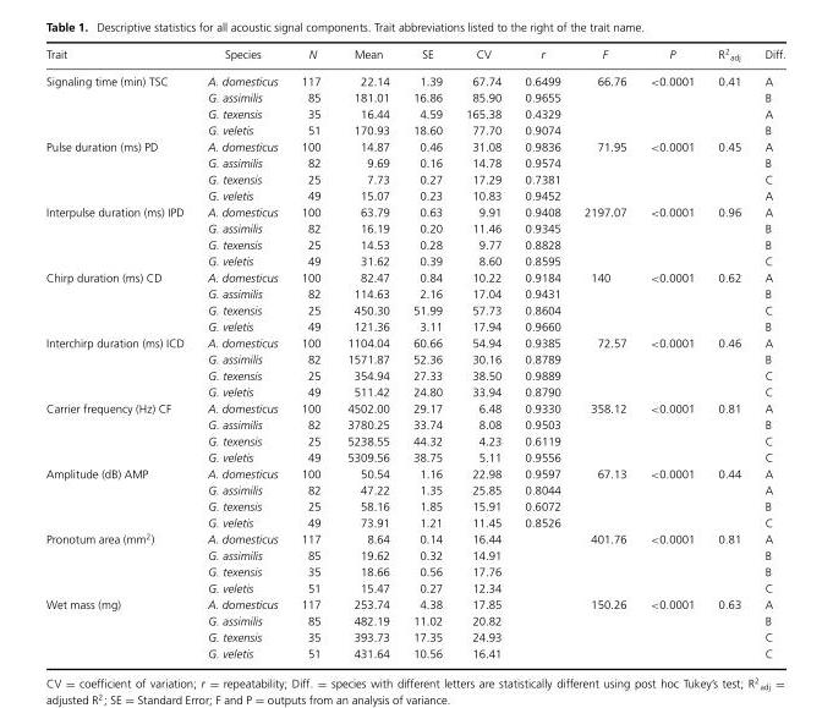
<table><thead><tr><td>Trait</td><td>Species</td><td>N</td><td>Mean</td><td>SE</td><td>CV</td><td>r</td><td>F</td><td>P</td><td>R<sup>2</sup><sub>adj</sub></td><td>Diff.</td></tr></thead><tbody><tr><td rowspan="4">Signaling time (min) TSC</td><td>A. domesticus</td><td>117</td><td>22.14</td><td>1.39</td><td>67.74</td><td>0.6499</td><td>66.76</td><td>&lt;0.0001</td><td>0.41</td><td>A</td></tr><tr><td>G. assimilis</td><td>85</td><td>181.01</td><td>16.86</td><td>85.90</td><td>0.9655</td><td></td><td></td><td></td><td>B</td></tr><tr><td>G. texensis</td><td>35</td><td>16.44</td><td>4.59</td><td>165.38</td><td>0.4329</td><td></td><td></td><td></td><td>A</td></tr><tr><td>G. veletis</td><td>51</td><td>170.93</td><td>18.60</td><td>77.70</td><td>0.9074</td><td></td><td></td><td></td><td>B</td></tr><tr><td rowspan="4">Pulse duration (ms) PD</td><td>A. domesticus</td><td>100</td><td>14.87</td><td>0.46</td><td>31.08</td><td>0.9836</td><td>71.95</td><td>&lt;0.0001</td><td>0.45</td><td>A</td></tr><tr><td>G. assimilis</td><td>82</td><td>9.69</td><td>0.16</td><td>14.78</td><td>0.9574</td><td></td><td></td><td></td><td>B</td></tr><tr><td>G. texensis</td><td>25</td><td>7.73</td><td>0.27</td><td>17.29</td><td>0.7381</td><td></td><td></td><td></td><td>C</td></tr><tr><td>G. veletis</td><td>49</td><td>15.07</td><td>0.23</td><td>10.83</td><td>0.9452</td><td></td><td></td><td></td><td>A</td></tr><tr><td rowspan="4">Interpulse duration (ms) IPD</td><td>A. domesticus</td><td>100</td><td>63.79</td><td>0.63</td><td>9.91</td><td>0.9408</td><td>2197.07</td><td>&lt;0.0001</td><td>0.96</td><td>A</td></tr><tr><td>G. assimilis</td><td>82</td><td>16.19</td><td>0.20</td><td>11.46</td><td>0.9345</td><td></td><td></td><td></td><td>B</td></tr><tr><td>G. texensis</td><td>25</td><td>14.53</td><td>0.28</td><td>9.77</td><td>0.8828</td><td></td><td></td><td></td><td>B</td></tr><tr><td>G. veletis</td><td>49</td><td>31.62</td><td>0.39</td><td>8.60</td><td>0.8595</td><td></td><td></td><td></td><td>C</td></tr><tr><td rowspan="4">Chirp duration (ms) CD</td><td>A. domesticus</td><td>100</td><td>82.47</td><td>0.84</td><td>10.22</td><td>0.9184</td><td>140</td><td>&lt;0.0001</td><td>0.62</td><td>A</td></tr><tr><td>G. assimilis</td><td>82</td><td>114.63</td><td>2.16</td><td>17.04</td><td>0.9431</td><td></td><td></td><td></td><td>B</td></tr><tr><td>G. texensis</td><td>25</td><td>450.30</td><td>51.99</td><td>57.73</td><td>0.8604</td><td></td><td></td><td></td><td>C</td></tr><tr><td>G. veletis</td><td>49</td><td>121.36</td><td>3.11</td><td>17.94</td><td>0.9660</td><td></td><td></td><td></td><td>B</td></tr><tr><td rowspan="4">Interchirp duration (ms) ICD</td><td>A. domesticus</td><td>100</td><td>1104.04</td><td>60.66</td><td>54.94</td><td>0.9385</td><td>72.57</td><td>&lt;0.0001</td><td>0.46</td><td>A</td></tr><tr><td>G. assimilis</td><td>82</td><td>1571.87</td><td>52.36</td><td>30.16</td><td>0.8789</td><td></td><td></td><td></td><td>B</td></tr><tr><td>G. texensis</td><td>25</td><td>354.94</td><td>27.33</td><td>38.50</td><td>0.9889</td><td></td><td></td><td></td><td>C</td></tr><tr><td>G. veletis</td><td>49</td><td>511.42</td><td>24.80</td><td>33.94</td><td>0.8790</td><td></td><td></td><td></td><td>C</td></tr><tr><td rowspan="4">Carrier frequency (Hz) CF</td><td>A. domesticus</td><td>100</td><td>4502.00</td><td>29.17</td><td>6.48</td><td>0.9330</td><td>358.12</td><td>&lt;0.0001</td><td>0.81</td><td>A</td></tr><tr><td>G. assimilis</td><td>82</td><td>3780.25</td><td>33.74</td><td>8.08</td><td>0.9503</td><td></td><td></td><td></td><td>B</td></tr><tr><td>G. texensis</td><td>25</td><td>5238.55</td><td>44.32</td><td>4.23</td><td>0.6119</td><td></td><td></td><td></td><td>C</td></tr><tr><td>G. veletis</td><td>49</td><td>5309.56</td><td>38.75</td><td>5.11</td><td>0.9556</td><td></td><td></td><td></td><td>C</td></tr><tr><td rowspan="4">Amplitude (dB) AMP</td><td>A. domesticus</td><td>100</td><td>50.54</td><td>1.16</td><td>22.98</td><td>0.9597</td><td>67.13</td><td>&lt;0.0001</td><td>0.44</td><td>A</td></tr><tr><td>G. assimilis</td><td>82</td><td>47.22</td><td>1.35</td><td>25.85</td><td>0.8044</td><td></td><td></td><td></td><td>A</td></tr><tr><td>G. texensis</td><td>25</td><td>58.16</td><td>1.85</td><td>15.91</td><td>0.6072</td><td></td><td></td><td></td><td>B</td></tr><tr><td>G. veletis</td><td>49</td><td>73.91</td><td>1.21</td><td>11.45</td><td>0.8526</td><td></td><td></td><td></td><td>C</td></tr><tr><td rowspan="4">Pronotum area (mm<sup>2</sup>)</td><td>A. domesticus</td><td>117</td><td>8.64</td><td>0.14</td><td>16.44</td><td></td><td>401.76</td><td>&lt;0.0001</td><td>0.81</td><td>A</td></tr><tr><td>G. assimilis</td><td>85</td><td>19.62</td><td>0.32</td><td>14.91</td><td></td><td></td><td></td><td></td><td>B</td></tr><tr><td>G. texensis</td><td>35</td><td>18.66</td><td>0.56</td><td>17.76</td><td></td><td></td><td></td><td></td><td>B</td></tr><tr><td>G. veletis</td><td>51</td><td>15.47</td><td>0.27</td><td>12.34</td><td></td><td></td><td></td><td></td><td>C</td></tr><tr><td rowspan="4">Wet mass (mg)</td><td>A. domesticus</td><td>117</td><td>253.74</td><td>4.38</td><td>17.85</td><td></td><td>150.26</td><td>&lt;0.0001</td><td>0.63</td><td>A</td></tr><tr><td>G. assimilis</td><td>85</td><td>482.19</td><td>11.02</td><td>20.82</td><td></td><td></td><td></td><td></td><td>B</td></tr><tr><td>G. texensis</td><td>35</td><td>393.73</td><td>17.35</td><td>24.93</td><td></td><td></td><td></td><td></td><td>C</td></tr><tr><td>G. veletis</td><td>51</td><td>431.64</td><td>10.56</td><td>16.41</td><td></td><td></td><td></td><td></td><td>C</td></tr></tbody></table>